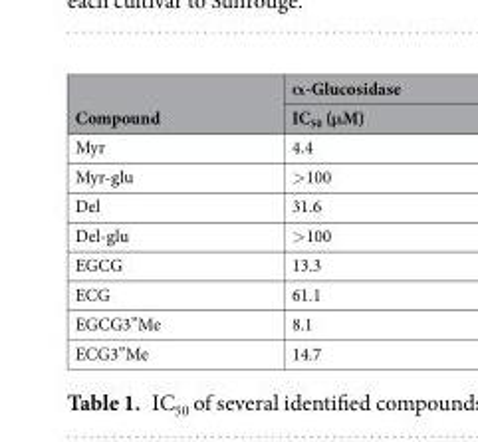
<table><thead><tr><td rowspan="2">Compound</td><td rowspan="2">α-Glucosidase IC<sub>50</sub> (μM)</td></tr><tr></tr></thead><tbody><tr><td>Myr</td><td>4.4</td></tr><tr><td>Myr-glu</td><td>&gt;100</td></tr><tr><td>Del</td><td>31.6</td></tr><tr><td>Del-glu</td><td>&gt;100</td></tr><tr><td>EGCG</td><td>13.3</td></tr><tr><td>ECG</td><td>61.1</td></tr><tr><td>EGCG3”Me</td><td>8.1</td></tr><tr><td>ECG3”Me</td><td>14.7</td></tr></tbody></table>